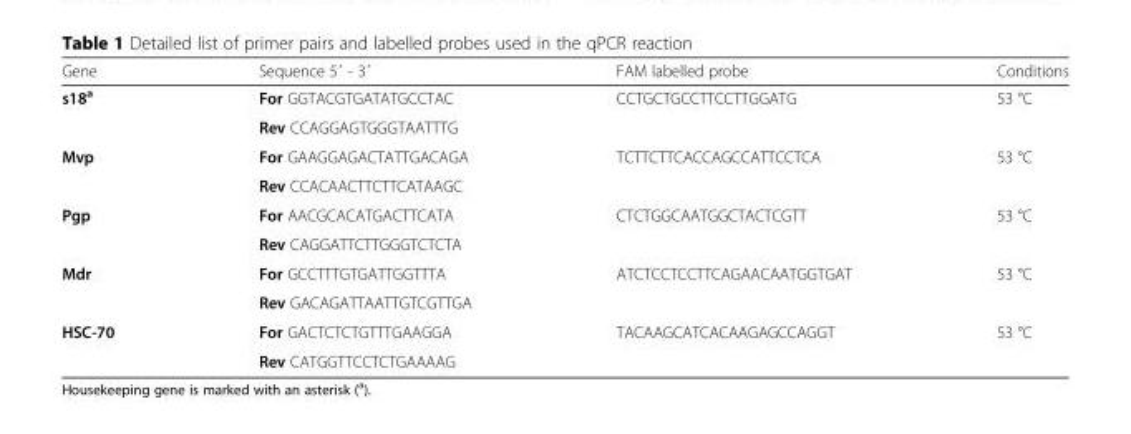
<table><thead><tr><td>Gene</td><td>Sequence 5ʹ - 3ʹ</td><td>FAM labelled probe</td><td>Conditions</td></tr></thead><tbody><tr><td rowspan="2">s18<sup>a</sup></td><td>For GGTACGTGATATGCCTAC</td><td rowspan="2">CCTGCTGCCTTCCTTGGATG</td><td rowspan="2">53 °C</td></tr><tr><td>Rev CCAGGAGTGGGTAATTTG</td></tr><tr><td rowspan="2">Mvp</td><td>For GAAGGAGACTATTGACAGA</td><td rowspan="2">TCTTCTTCACCAGCCATTCCTCA</td><td rowspan="2">53 °C</td></tr><tr><td>Rev CCACAACTTCTTCATAAGC</td></tr><tr><td rowspan="2">Pgp</td><td>For AACGCACATGACTTCATA</td><td rowspan="2">CTCTGGCAATGGCTACTCGTT</td><td rowspan="2">53 °C</td></tr><tr><td>Rev CAGGATTCTTGGGTCTCTA</td></tr><tr><td rowspan="2">Mdr</td><td>For GCCTTTGTGATTGGTTTA</td><td rowspan="2">ATCTCCTCCTTCAGAACAATGGTGAT</td><td rowspan="2">53 °C</td></tr><tr><td>Rev GACAGATTAATTGTCGTTGA</td></tr><tr><td rowspan="2">HSC-70</td><td>For GACTCTCTGTTTGAAGGA</td><td rowspan="2">TACAAGCATCACAAGAGCCAGGT</td><td rowspan="2">53 °C</td></tr><tr><td>Rev CATGGTTCCTCTGAAAAG</td></tr></tbody></table>